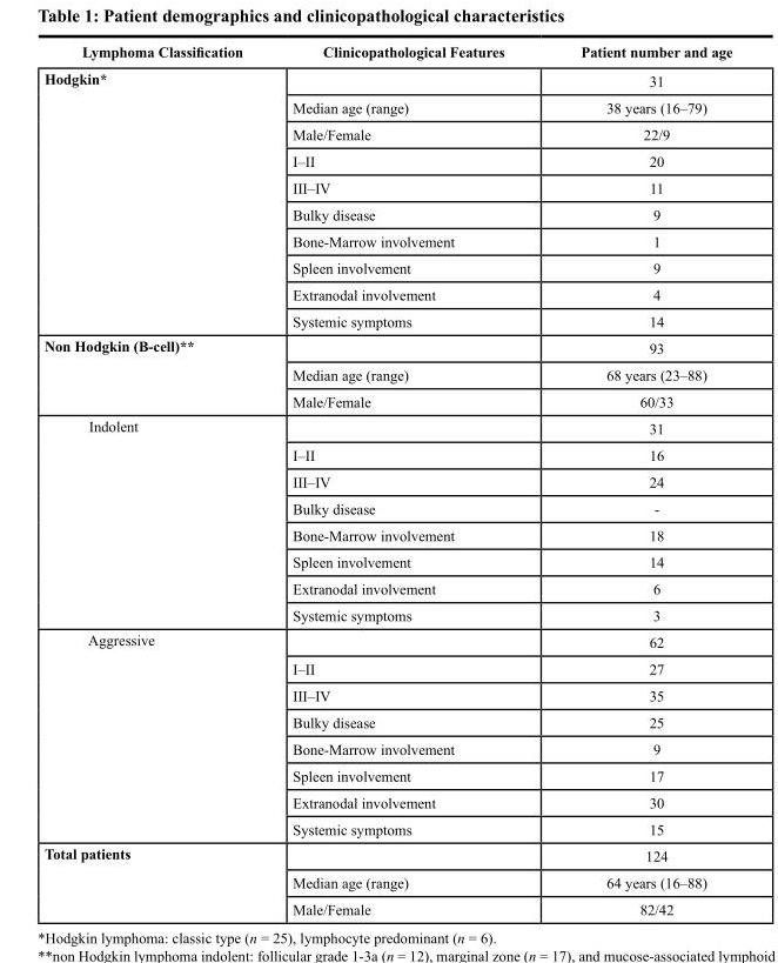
<table><thead><tr><td>Lymphoma Classification</td><td>Clinicopathological Features</td><td>Patient number and age</td></tr></thead><tbody><tr><td rowspan="10">Hodgkin*</td><td></td><td>31</td></tr><tr><td>Median age (range)</td><td>38 years (16–79)</td></tr><tr><td>Male/Female</td><td>22/9</td></tr><tr><td>I–II</td><td>20</td></tr><tr><td>III–IV</td><td>11</td></tr><tr><td>Bulky disease</td><td>9</td></tr><tr><td>Bone-Marrow involvement</td><td>1</td></tr><tr><td>Spleen involvement</td><td>9</td></tr><tr><td>Extranodal involvement</td><td>4</td></tr><tr><td>Systemic symptoms</td><td>14</td></tr><tr><td rowspan="3">Non Hodgkin (B-cell)**</td><td></td><td>93</td></tr><tr><td>Median age (range)</td><td>68 years (23–88)</td></tr><tr><td>Male/Female</td><td>60/33</td></tr><tr><td rowspan="8">Indolent</td><td></td><td>31</td></tr><tr><td>I–II</td><td>16</td></tr><tr><td>III–IV</td><td>24</td></tr><tr><td>Bulky disease</td><td>-</td></tr><tr><td>Bone-Marrow involvement</td><td>18</td></tr><tr><td>Spleen involvement</td><td>14</td></tr><tr><td>Extranodal involvement</td><td>6</td></tr><tr><td>Systemic symptoms</td><td>3</td></tr><tr><td rowspan="8">Aggressive</td><td></td><td>62</td></tr><tr><td>I–II</td><td>27</td></tr><tr><td>III–IV</td><td>35</td></tr><tr><td>Bulky disease</td><td>25</td></tr><tr><td>Bone-Marrow involvement</td><td>9</td></tr><tr><td>Spleen involvement</td><td>17</td></tr><tr><td>Extranodal involvement</td><td>30</td></tr><tr><td>Systemic symptoms</td><td>15</td></tr><tr><td rowspan="3">Total patients</td><td></td><td>124</td></tr><tr><td>Median age (range)</td><td>64 years (16–88)</td></tr><tr><td>Male/Female</td><td>82/42</td></tr></tbody></table>